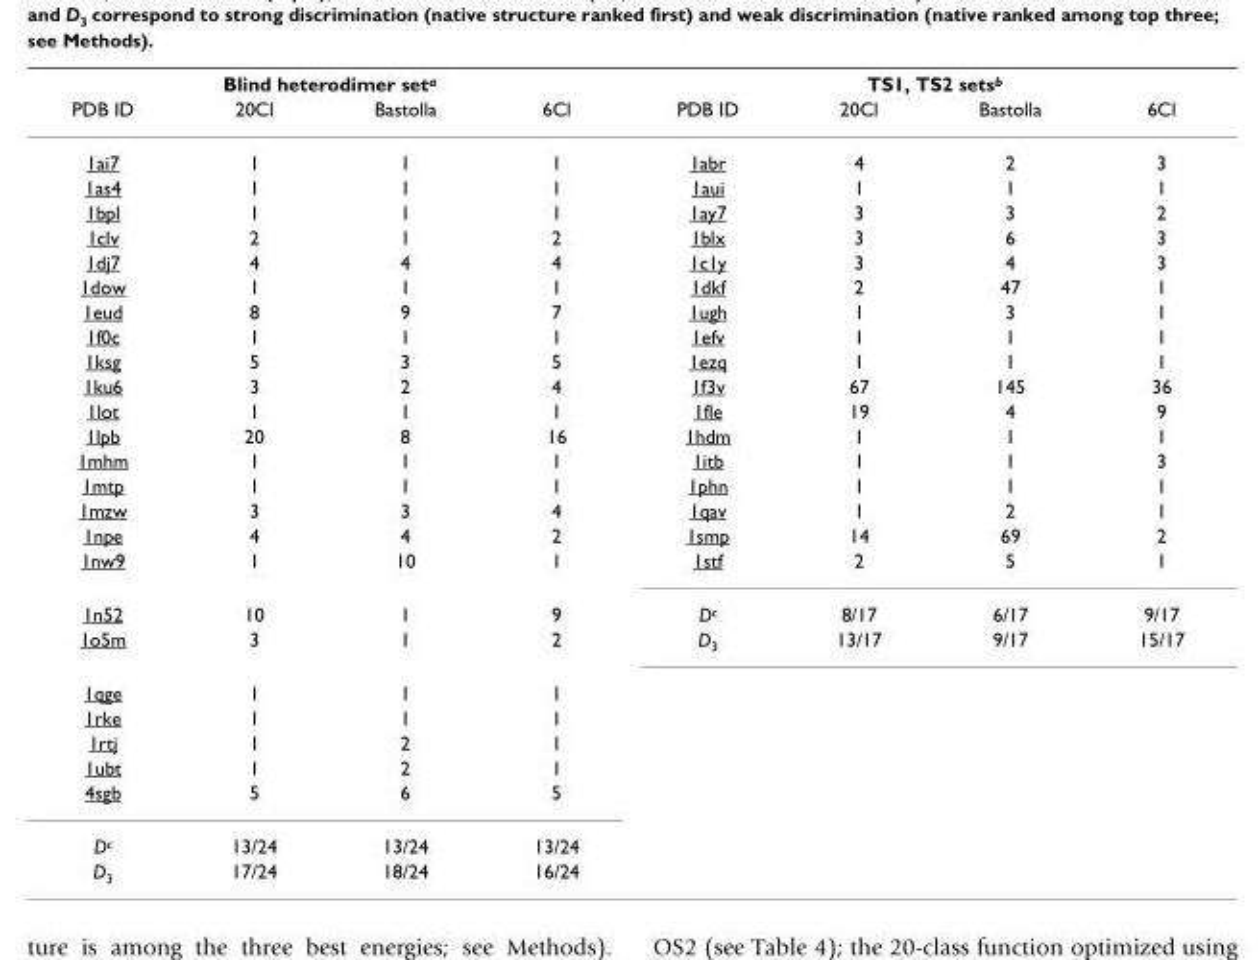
<table><thead><tr><td colspan="4">Blind heterodimer set<sup>a</sup></td><td colspan="4">TS1, TS2 sets<sup>b</sup></td></tr><tr><td>PDB ID</td><td>20Cl</td><td>Bastolla</td><td>6Cl</td><td>PDB ID</td><td>20Cl</td><td>Bastolla</td><td>6Cl</td></tr></thead><tbody><tr><td>1ai7</td><td>1</td><td>1</td><td>1</td><td>1abr</td><td>4</td><td>2</td><td>3</td></tr><tr><td>1as4</td><td>1</td><td>1</td><td>1</td><td>1aui</td><td>1</td><td>1</td><td>1</td></tr><tr><td>1bpl</td><td>1</td><td>1</td><td>1</td><td>1ay7</td><td>3</td><td>3</td><td>2</td></tr><tr><td>1clv</td><td>2</td><td>1</td><td>2</td><td>1blx</td><td>3</td><td>6</td><td>3</td></tr><tr><td>1dj7</td><td>4</td><td>4</td><td>4</td><td>1c1y</td><td>3</td><td>4</td><td>3</td></tr><tr><td>1dow</td><td>1</td><td>1</td><td>1</td><td>1dkf</td><td>2</td><td>47</td><td>1</td></tr><tr><td>1eud</td><td>8</td><td>9</td><td>7</td><td>1ugh</td><td>1</td><td>3</td><td>1</td></tr><tr><td>1f0c</td><td>1</td><td>1</td><td>1</td><td>1efv</td><td>1</td><td>1</td><td>1</td></tr><tr><td>1ksg</td><td>5</td><td>3</td><td>5</td><td>1ezq</td><td>1</td><td>1</td><td>1</td></tr><tr><td>1ku6</td><td>3</td><td>2</td><td>4</td><td>1f3v</td><td>67</td><td>145</td><td>36</td></tr><tr><td>1lot</td><td>1</td><td>1</td><td>1</td><td>1fle</td><td>19</td><td>4</td><td>9</td></tr><tr><td>1lpb</td><td>20</td><td>8</td><td>16</td><td>1hdm</td><td>1</td><td>1</td><td>1</td></tr><tr><td>1mhm</td><td>1</td><td>1</td><td>1</td><td>1itb</td><td>1</td><td>1</td><td>3</td></tr><tr><td>1mtp</td><td>1</td><td>1</td><td>1</td><td>1phn</td><td>1</td><td>1</td><td>1</td></tr><tr><td>1mzw</td><td>3</td><td>3</td><td>4</td><td>1qav</td><td>1</td><td>2</td><td>1</td></tr><tr><td>1npe</td><td>4</td><td>4</td><td>2</td><td>1smp</td><td>14</td><td>69</td><td>2</td></tr><tr><td>1nw9</td><td>1</td><td>10</td><td>1</td><td>1stf</td><td>2</td><td>5</td><td>1</td></tr><tr><td>1n52</td><td>10</td><td>1</td><td>9</td><td>D<sup>c</sup></td><td>8/17</td><td>6/17</td><td>9/17</td></tr><tr><td>1o5m</td><td>3</td><td>1</td><td>2</td><td>D<sub>3</sub></td><td>13/17</td><td>9/17</td><td>15/17</td></tr><tr><td>1qge</td><td>1</td><td>1</td><td>1</td><td></td><td></td><td></td><td></td></tr><tr><td>1rke</td><td>1</td><td>1</td><td>1</td><td></td><td></td><td></td><td></td></tr><tr><td>1rtj</td><td>1</td><td>2</td><td>1</td><td></td><td></td><td></td><td></td></tr><tr><td>1ubt</td><td>1</td><td>2</td><td>1</td><td></td><td></td><td></td><td></td></tr><tr><td>4sgb</td><td>5</td><td>6</td><td>5</td><td></td><td></td><td></td><td></td></tr><tr><td>D<sup>c</sup></td><td>13/24</td><td>13/24</td><td>13/24</td><td></td><td></td><td></td><td></td></tr><tr><td>D<sub>3</sub></td><td>17/24</td><td>18/24</td><td>16/24</td><td></td><td></td><td></td><td></td></tr></tbody></table>